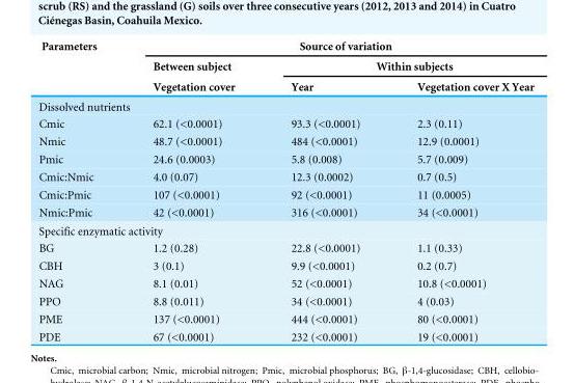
<table><thead><tr><td rowspan="3">Parameters</td><td colspan="3">Source of variation</td></tr><tr><td rowspan="2">Between subject Vegetation cover</td><td colspan="2">Within subjects</td></tr><tr><td>Year</td><td>Vegetation cover X Year</td></tr></thead><tbody><tr><td colspan="4">Dissolved nutrients</td></tr><tr><td>Cmic</td><td>62.1 (&lt;0.0001)</td><td>93.3 (&lt;0.0001)</td><td>2.3 (0.11)</td></tr><tr><td>Nmic</td><td>48.7 (&lt;0.0001)</td><td>484 (&lt;0.0001)</td><td>12.9 (0.0001)</td></tr><tr><td>Pmic</td><td>24.6 (0.0003)</td><td>5.8 (0.008)</td><td>5.7 (0.009)</td></tr><tr><td>Cmic:Nmic</td><td>4.0 (0.07)</td><td>12.3 (0.0002)</td><td>0.7 (0.5)</td></tr><tr><td>Cmic:Pmic</td><td>107 (&lt;0.0001)</td><td>92 (&lt;0.0001)</td><td>11 (0.0005)</td></tr><tr><td>Nmic:Pmic</td><td>42 (&lt;0.0001)</td><td>316 (&lt;0.0001)</td><td>34 (&lt;0.0001)</td></tr><tr><td colspan="4">Specific enzymatic activity</td></tr><tr><td>BG</td><td>1.2 (0.28)</td><td>22.8 (&lt;0.0001)</td><td>1.1 (0.33)</td></tr><tr><td>CBH</td><td>3 (0.1)</td><td>9.9 (&lt;0.0001)</td><td>0.2 (0.7)</td></tr><tr><td>NAG</td><td>8.1 (0.01)</td><td>52 (&lt;0.0001)</td><td>10.8 (&lt;0.0001)</td></tr><tr><td>PPO</td><td>8.8 (0.011)</td><td>34 (&lt;0.0001)</td><td>4 (0.03)</td></tr><tr><td>PME</td><td>137 (&lt;0.0001)</td><td>444 (&lt;0.0001)</td><td>80 (&lt;0.0001)</td></tr><tr><td>PDE</td><td>67 (&lt;0.0001)</td><td>232 (&lt;0.0001)</td><td>19 (&lt;0.0001)</td></tr></tbody></table>